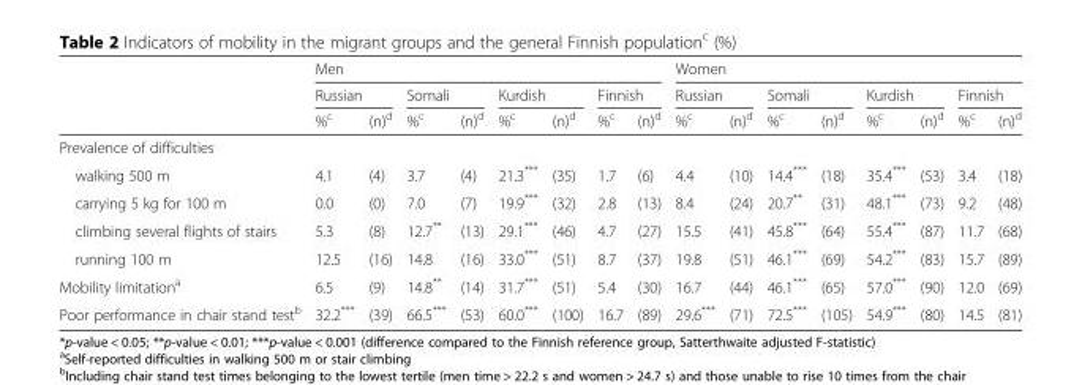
<table><thead><tr><td rowspan="3"></td><td colspan="8">Men</td><td colspan="8">Women</td></tr><tr><td colspan="2">Russian</td><td colspan="2">Somali</td><td colspan="2">Kurdish</td><td colspan="2">Finnish</td><td colspan="2">Russian</td><td colspan="2">Somali</td><td colspan="2">Kurdish</td><td colspan="2">Finnish</td></tr><tr><td>%<sup>c</sup></td><td>(n)<sup>d</sup></td><td>%<sup>c</sup></td><td>(n)<sup>d</sup></td><td>%<sup>c</sup></td><td>(n)<sup>d</sup></td><td>%<sup>c</sup></td><td>(n)<sup>d</sup></td><td>%<sup>c</sup></td><td>(n)<sup>d</sup></td><td>%<sup>c</sup></td><td>(n)<sup>d</sup></td><td>%<sup>c</sup></td><td>(n)<sup>d</sup></td><td>%<sup>c</sup></td><td>(n)<sup>d</sup></td></tr></thead><tbody><tr><td colspan="17">Prevalence of difficulties</td></tr><tr><td>walking 500 m</td><td>4.1</td><td>(4)</td><td>3.7</td><td>(4)</td><td>21.3***</td><td>(35)</td><td>1.7</td><td>(6)</td><td>4.4</td><td>(10)</td><td>14.4***</td><td>(18)</td><td>35.4***</td><td>(53)</td><td>3.4</td><td>(18)</td></tr><tr><td>carrying 5 kg for 100 m</td><td>0.0</td><td>(0)</td><td>7.0</td><td>(7)</td><td>19.9***</td><td>(32)</td><td>2.8</td><td>(13)</td><td>8.4</td><td>(24)</td><td>20.7**</td><td>(31)</td><td>48.1***</td><td>(73)</td><td>9.2</td><td>(48)</td></tr><tr><td>climbing several flights of stairs</td><td>5.3</td><td>(8)</td><td>12.7**</td><td>(13)</td><td>29.1***</td><td>(46)</td><td>4.7</td><td>(27)</td><td>15.5</td><td>(41)</td><td>45.8***</td><td>(64)</td><td>55.4***</td><td>(87)</td><td>11.7</td><td>(68)</td></tr><tr><td>running 100 m</td><td>12.5</td><td>(16)</td><td>14.8</td><td>(16)</td><td>33.0***</td><td>(51)</td><td>8.7</td><td>(37)</td><td>19.8</td><td>(51)</td><td>46.1***</td><td>(69)</td><td>54.2***</td><td>(83)</td><td>15.7</td><td>(89)</td></tr><tr><td>Mobility limitation<sup>a</sup></td><td>6.5</td><td>(9)</td><td>14.8**</td><td>(14)</td><td>31.7***</td><td>(51)</td><td>5.4</td><td>(30)</td><td>16.7</td><td>(44)</td><td>46.1***</td><td>(65)</td><td>57.0***</td><td>(90)</td><td>12.0</td><td>(69)</td></tr><tr><td>Poor performance in chair stand test<sup>b</sup></td><td>32.2***</td><td>(39)</td><td>66.5***</td><td>(53)</td><td>60.0***</td><td>(100)</td><td>16.7</td><td>(89)</td><td>29.6***</td><td>(71)</td><td>72.5***</td><td>(105)</td><td>54.9***</td><td>(80)</td><td>14.5</td><td>(81)</td></tr></tbody></table>